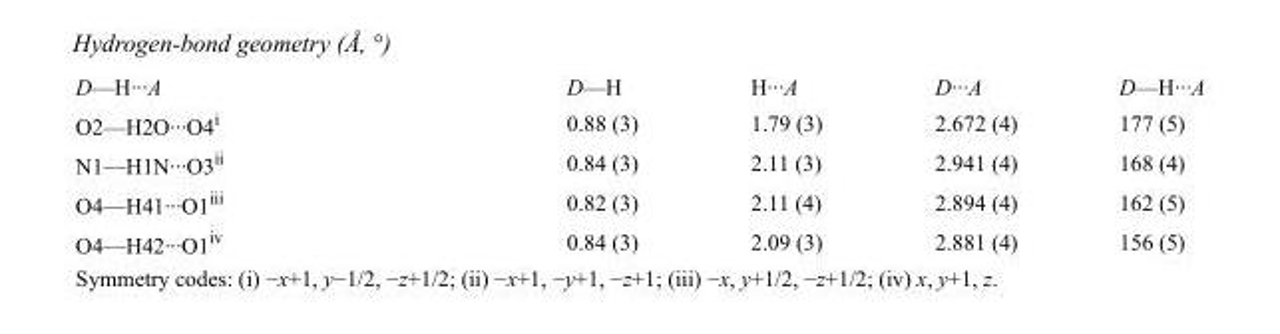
<table><tbody><tr><td>D—H···A</td><td>D—H</td><td>H···A</td><td>D···A</td><td>D—H···A</td></tr><tr><td>O2—H2O···O4<sup>i</sup></td><td>0.88 (3)</td><td>1.79 (3)</td><td>2.672 (4)</td><td>177 (5)</td></tr><tr><td>N1—H1N···O3<sup>ii</sup></td><td>0.84 (3)</td><td>2.11 (3)</td><td>2.941 (4)</td><td>168 (4)</td></tr><tr><td>O4—H41···O1<sup>iii</sup></td><td>0.82 (3)</td><td>2.11 (4)</td><td>2.894 (4)</td><td>162 (5)</td></tr><tr><td>O4—H42···O1<sup>iv</sup></td><td>0.84 (3)</td><td>2.09 (3)</td><td>2.881 (4)</td><td>156 (5)</td></tr></tbody></table>